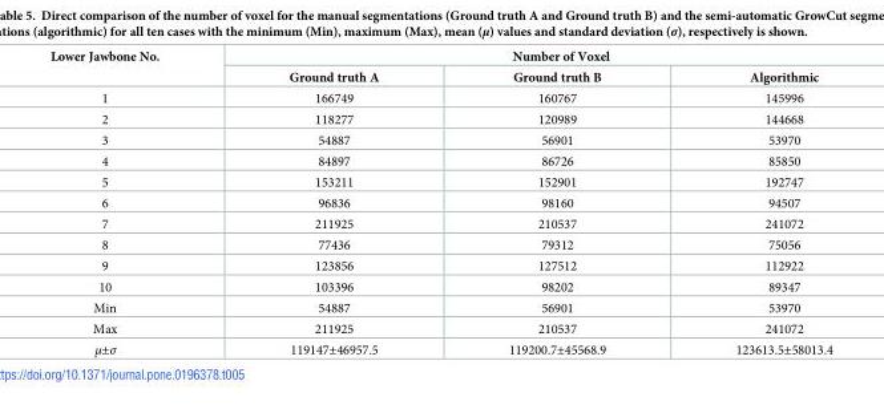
<table><thead><tr><td rowspan="2">Lower Jawbone No.</td><td colspan="3">Number of Voxel</td></tr><tr><td>Ground truth A</td><td>Ground truth B</td><td>Algorithmic</td></tr></thead><tbody><tr><td>1</td><td>166749</td><td>160767</td><td>145996</td></tr><tr><td>2</td><td>118277</td><td>120989</td><td>144668</td></tr><tr><td>3</td><td>54887</td><td>56901</td><td>53970</td></tr><tr><td>4</td><td>84897</td><td>86726</td><td>85850</td></tr><tr><td>5</td><td>153211</td><td>152901</td><td>192747</td></tr><tr><td>6</td><td>96836</td><td>98160</td><td>94507</td></tr><tr><td>7</td><td>211925</td><td>210537</td><td>241072</td></tr><tr><td>8</td><td>77436</td><td>79312</td><td>75056</td></tr><tr><td>9</td><td>123856</td><td>127512</td><td>112922</td></tr><tr><td>10</td><td>103396</td><td>98202</td><td>89347</td></tr><tr><td>Min</td><td>54887</td><td>56901</td><td>53970</td></tr><tr><td>Max</td><td>211925</td><td>210537</td><td>241072</td></tr><tr><td>μ±σ</td><td>119147±46957.5</td><td>119200.7±45568.9</td><td>123613.5±58013.4</td></tr></tbody></table>